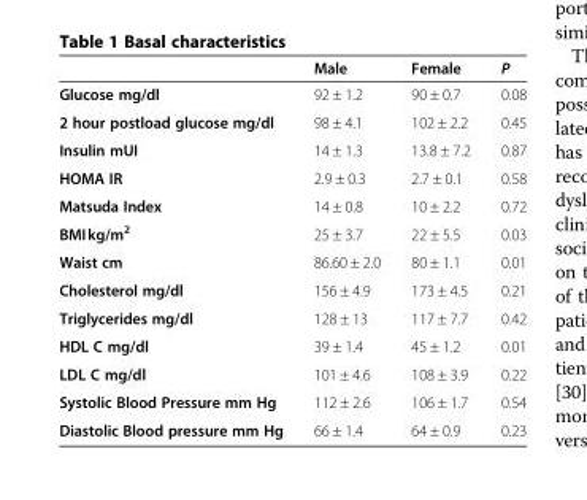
<table><thead><tr><td></td><td>Male</td><td>Female</td><td>P</td></tr></thead><tbody><tr><td>Glucose mg/dl</td><td>92 ± 1.2</td><td>90 ± 0.7</td><td>0.08</td></tr><tr><td>2 hour postload glucose mg/dl</td><td>98 ± 4.1</td><td>102 ± 2.2</td><td>0.45</td></tr><tr><td>Insulin mUI</td><td>14 ± 1.3</td><td>13.8 ± 7.2</td><td>0.87</td></tr><tr><td>HOMA IR</td><td>2.9 ± 0.3</td><td>2.7 ± 0.1</td><td>0.58</td></tr><tr><td>Matsuda Index</td><td>14 ± 0.8</td><td>10 ± 2.2</td><td>0.72</td></tr><tr><td>BMIkg/m<sup>2</sup></td><td>25 ± 3.7</td><td>22 ± 5.5</td><td>0.03</td></tr><tr><td>Waist cm</td><td>86.60 ± 2.0</td><td>80 ± 1.1</td><td>0.01</td></tr><tr><td>Cholesterol mg/dl</td><td>156 ± 4.9</td><td>173 ± 4.5</td><td>0.21</td></tr><tr><td>Triglycerides mg/dl</td><td>128 ± 13</td><td>117 ± 7.7</td><td>0.42</td></tr><tr><td>HDL C mg/dl</td><td>39 ± 1.4</td><td>45 ± 1.2</td><td>0.01</td></tr><tr><td>LDL C mg/dl</td><td>101 ± 4.6</td><td>108 ± 3.9</td><td>0.22</td></tr><tr><td>Systolic Blood Pressure mm Hg</td><td>112 ± 2.6</td><td>106 ± 1.7</td><td>0.54</td></tr><tr><td>Diastolic Blood pressure mm Hg</td><td>66 ± 1.4</td><td>64 ± 0.9</td><td>0.23</td></tr></tbody></table>